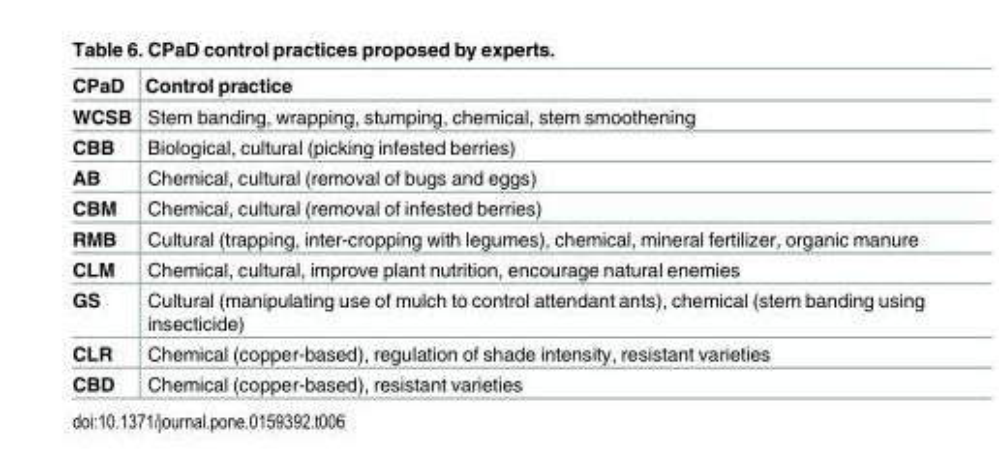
<table><thead><tr><td>CPaD</td><td>Control practice</td></tr></thead><tbody><tr><td>WCSB</td><td>Stem banding, wrapping, stumping, chemical, stem smoothening</td></tr><tr><td>CBB</td><td>Biological, cultural (picking infested berries)</td></tr><tr><td>AB</td><td>Chemical, cultural (removal of bugs and eggs)</td></tr><tr><td>CBM</td><td>Chemical, cultural (removal of infested berries)</td></tr><tr><td>RMB</td><td>Cultural (trapping, inter-cropping with legumes), chemical, mineral fertilizer, organic manure</td></tr><tr><td>CLM</td><td>Chemical, cultural, improve plant nutrition, encourage natural enemies</td></tr><tr><td>GS</td><td>Cultural (manipulating use of mulch to control attendant ants), chemical (stem banding using insecticide)</td></tr><tr><td>CLR</td><td>Chemical (copper-based), regulation of shade intensity, resistant varieties</td></tr><tr><td>CBD</td><td>Chemical (copper-based), resistant varieties</td></tr></tbody></table>